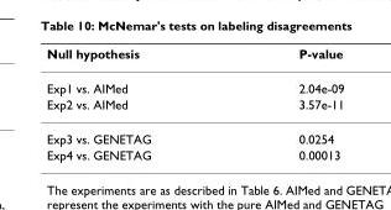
<table><thead><tr><td>Null hypothesis</td><td>P-value</td></tr></thead><tbody><tr><td>Exp1 vs. AIMed</td><td>2.04e-09</td></tr><tr><td>Exp2 vs. AIMed</td><td>3.57e-11</td></tr><tr><td>Exp3 vs. GENETAG</td><td>0.0254</td></tr><tr><td>Exp4 vs. GENETAG</td><td>0.00013</td></tr></tbody></table>